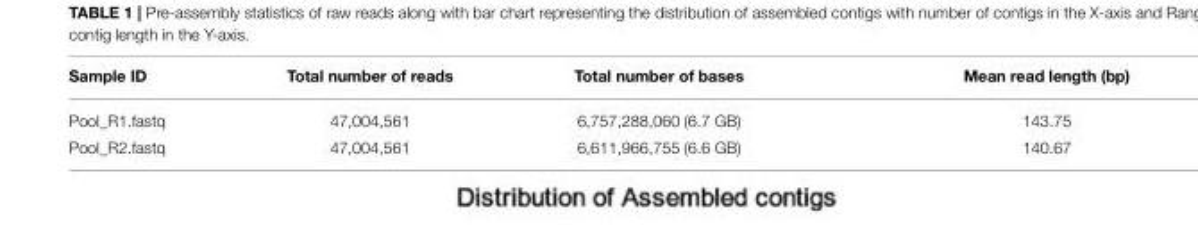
<table><thead><tr><td>Sample ID</td><td>Total number of reads</td><td>Total number of bases</td><td>Mean read length (bp)</td></tr></thead><tbody><tr><td>Pool_R1.fastq</td><td>47,004,561</td><td>6,757,288,060 (6.7 GB)</td><td>143.75</td></tr><tr><td>Pool_R2.fastq</td><td>47,004,561</td><td>6,611,966,755 (6.6 GB)</td><td>140.67</td></tr></tbody></table>